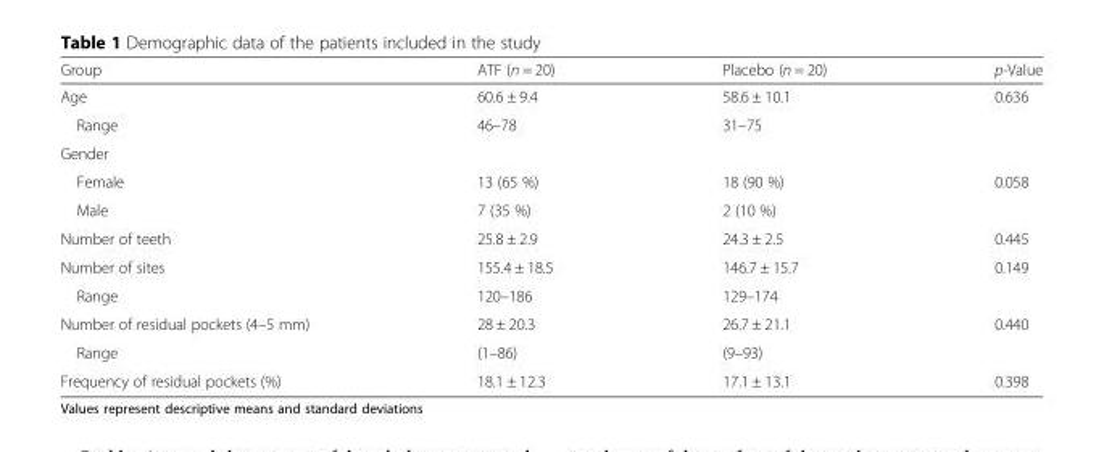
<table><thead><tr><td>Group</td><td>ATF (n = 20)</td><td>Placebo (n = 20)</td><td>p-Value</td></tr></thead><tbody><tr><td>Age</td><td>60.6 ± 9.4</td><td>58.6 ± 10.1</td><td>0.636</td></tr><tr><td>Range</td><td>46–78</td><td>31–75</td><td></td></tr><tr><td colspan="4">Gender</td></tr><tr><td>Female</td><td>13 (65 %)</td><td>18 (90 %)</td><td>0.058</td></tr><tr><td>Male</td><td>7 (35 %)</td><td>2 (10 %)</td><td></td></tr><tr><td>Number of teeth</td><td>25.8 ± 2.9</td><td>24.3 ± 2.5</td><td>0.445</td></tr><tr><td>Number of sites</td><td>155.4 ± 18.5</td><td>146.7 ± 15.7</td><td>0.149</td></tr><tr><td>Range</td><td>120–186</td><td>129–174</td><td></td></tr><tr><td>Number of residual pockets (4–5 mm)</td><td>28 ± 20.3</td><td>26.7 ± 21.1</td><td>0.440</td></tr><tr><td>Range</td><td>(1–86)</td><td>(9–93)</td><td></td></tr><tr><td>Frequency of residual pockets (%)</td><td>18.1 ± 12.3</td><td>17.1 ± 13.1</td><td>0.398</td></tr></tbody></table>